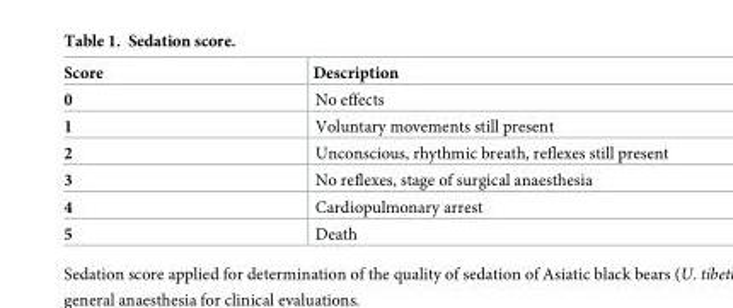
<table><thead><tr><td>Score</td><td>Description</td></tr></thead><tbody><tr><td>0</td><td>No effects</td></tr><tr><td>1</td><td>Voluntary movements still present</td></tr><tr><td>2</td><td>Unconscious, rhythmic breath, reflexes still present</td></tr><tr><td>3</td><td>No reflexes, stage of surgical anaesthesia</td></tr><tr><td>4</td><td>Cardiopulmonary arrest</td></tr><tr><td>5</td><td>Death</td></tr></tbody></table>